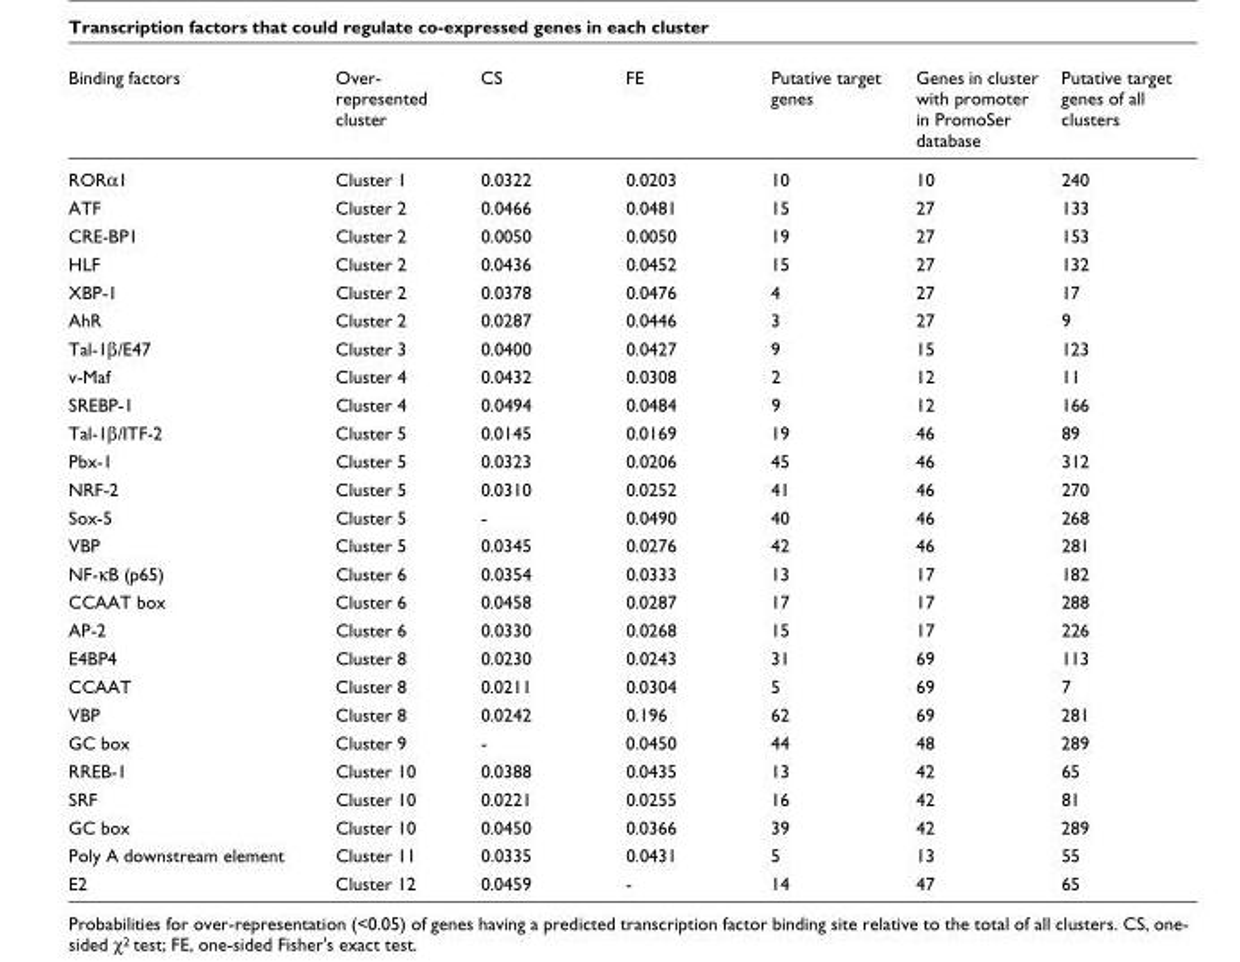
<table><thead><tr><td>Binding factors</td><td>Over- represented cluster</td><td>CS</td><td>FE</td><td>Putative target genes</td><td>Genes in cluster with promoter in PromoSer database</td><td>Putative target genes of all clusters</td></tr></thead><tbody><tr><td>RORα1</td><td>Cluster 1</td><td>0.0322</td><td>0.0203</td><td>10</td><td>10</td><td>240</td></tr><tr><td>ATF</td><td>Cluster 2</td><td>0.0466</td><td>0.0481</td><td>15</td><td>27</td><td>133</td></tr><tr><td>CRE-BP1</td><td>Cluster 2</td><td>0.0050</td><td>0.0050</td><td>19</td><td>27</td><td>153</td></tr><tr><td>HLF</td><td>Cluster 2</td><td>0.0436</td><td>0.0452</td><td>15</td><td>27</td><td>132</td></tr><tr><td>XBP-1</td><td>Cluster 2</td><td>0.0378</td><td>0.0476</td><td>4</td><td>27</td><td>17</td></tr><tr><td>AhR</td><td>Cluster 2</td><td>0.0287</td><td>0.0446</td><td>3</td><td>27</td><td>9</td></tr><tr><td>Tal-1β/E47</td><td>Cluster 3</td><td>0.0400</td><td>0.0427</td><td>9</td><td>15</td><td>123</td></tr><tr><td>v-Maf</td><td>Cluster 4</td><td>0.0432</td><td>0.0308</td><td>2</td><td>12</td><td>11</td></tr><tr><td>SREBP-1</td><td>Cluster 4</td><td>0.0494</td><td>0.0484</td><td>9</td><td>12</td><td>166</td></tr><tr><td>Tal-1β/ITF-2</td><td>Cluster 5</td><td>0.0145</td><td>0.0169</td><td>19</td><td>46</td><td>89</td></tr><tr><td>Pbx-1</td><td>Cluster 5</td><td>0.0323</td><td>0.0206</td><td>45</td><td>46</td><td>312</td></tr><tr><td>NRF-2</td><td>Cluster 5</td><td>0.0310</td><td>0.0252</td><td>41</td><td>46</td><td>270</td></tr><tr><td>Sox-5</td><td>Cluster 5</td><td>-</td><td>0.0490</td><td>40</td><td>46</td><td>268</td></tr><tr><td>VBP</td><td>Cluster 5</td><td>0.0345</td><td>0.0276</td><td>42</td><td>46</td><td>281</td></tr><tr><td>NF-κB (p65)</td><td>Cluster 6</td><td>0.0354</td><td>0.0333</td><td>13</td><td>17</td><td>182</td></tr><tr><td>CCAAT box</td><td>Cluster 6</td><td>0.0458</td><td>0.0287</td><td>17</td><td>17</td><td>288</td></tr><tr><td>AP-2</td><td>Cluster 6</td><td>0.0330</td><td>0.0268</td><td>15</td><td>17</td><td>226</td></tr><tr><td>E4BP4</td><td>Cluster 8</td><td>0.0230</td><td>0.0243</td><td>31</td><td>69</td><td>113</td></tr><tr><td>CCAAT</td><td>Cluster 8</td><td>0.0211</td><td>0.0304</td><td>5</td><td>69</td><td>7</td></tr><tr><td>VBP</td><td>Cluster 8</td><td>0.0242</td><td>0.196</td><td>62</td><td>69</td><td>281</td></tr><tr><td>GC box</td><td>Cluster 9</td><td>-</td><td>0.0450</td><td>44</td><td>48</td><td>289</td></tr><tr><td>RREB-1</td><td>Cluster 10</td><td>0.0388</td><td>0.0435</td><td>13</td><td>42</td><td>65</td></tr><tr><td>SRF</td><td>Cluster 10</td><td>0.0221</td><td>0.0255</td><td>16</td><td>42</td><td>81</td></tr><tr><td>GC box</td><td>Cluster 10</td><td>0.0450</td><td>0.0366</td><td>39</td><td>42</td><td>289</td></tr><tr><td>Poly A downstream element</td><td>Cluster 11</td><td>0.0335</td><td>0.0431</td><td>5</td><td>13</td><td>55</td></tr><tr><td>E2</td><td>Cluster 12</td><td>0.0459</td><td>-</td><td>14</td><td>47</td><td>65</td></tr></tbody></table>